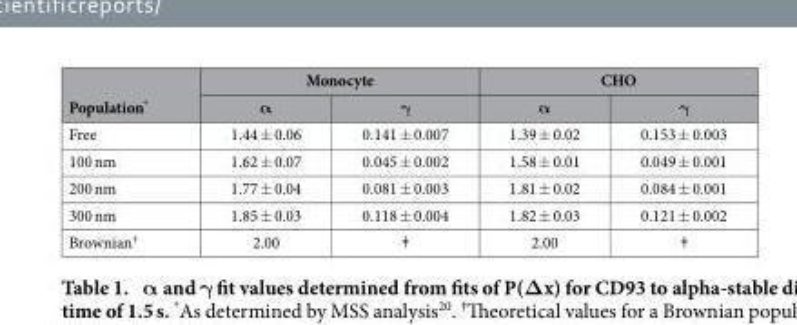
<table><thead><tr><td rowspan="2">Population*</td><td colspan="2">Monocyte</td><td colspan="2">CHO</td></tr><tr><td>α</td><td>γ</td><td>α</td><td>γ</td></tr></thead><tbody><tr><td>Free</td><td>1.44 ± 0.06</td><td>0.141 ± 0.007</td><td>1.39 ± 0.02</td><td>0.153 ± 0.003</td></tr><tr><td>100 nm</td><td>1.62 ± 0.07</td><td>0.045 ± 0.002</td><td>1.58 ± 0.01</td><td>0.049 ± 0.001</td></tr><tr><td>200 nm</td><td>1.77 ± 0.04</td><td>0.081 ± 0.003</td><td>1.81 ± 0.02</td><td>0.084 ± 0.001</td></tr><tr><td>300 nm</td><td>1.85 ± 0.03</td><td>0.118 ± 0.004</td><td>1.82 ± 0.03</td><td>0.121 ± 0.002</td></tr><tr><td>Brownian†</td><td>2.00</td><td>ǂ</td><td>2.00</td><td>ǂ</td></tr></tbody></table>